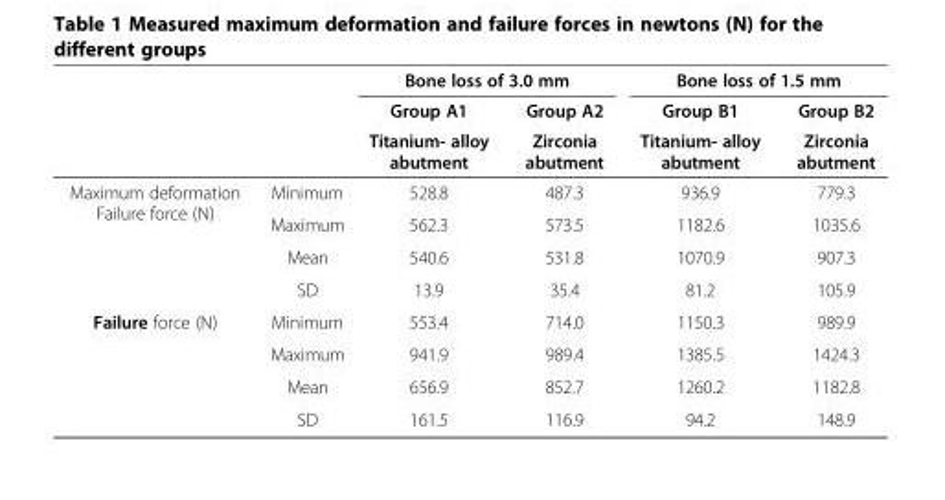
<table><thead><tr><td rowspan="3"></td><td rowspan="3"></td><td colspan="2">Bone loss of 3.0 mm</td><td colspan="2">Bone loss of 1.5 mm</td></tr><tr><td rowspan="2">Group A1 Titanium- alloy abutment</td><td rowspan="2">Group A2 Zirconia abutment</td><td rowspan="2">Group B1 Titanium- alloy abutment</td><td rowspan="2">Group B2 Zirconia abutment</td></tr><tr></tr></thead><tbody><tr><td rowspan="4">Maximum deformation Failure force (N)</td><td>Minimum</td><td>528.8</td><td>487.3</td><td>936.9</td><td>779.3</td></tr><tr><td>Maximum</td><td>562.3</td><td>573.5</td><td>1182.6</td><td>1035.6</td></tr><tr><td>Mean</td><td>540.6</td><td>531.8</td><td>1070.9</td><td>907.3</td></tr><tr><td>SD</td><td>13.9</td><td>35.4</td><td>81.2</td><td>105.9</td></tr><tr><td rowspan="4">Failure force (N)</td><td>Minimum</td><td>553.4</td><td>714.0</td><td>1150.3</td><td>989.9</td></tr><tr><td>Maximum</td><td>941.9</td><td>989.4</td><td>1385.5</td><td>1424.3</td></tr><tr><td>Mean</td><td>656.9</td><td>852.7</td><td>1260.2</td><td>1182.8</td></tr><tr><td>SD</td><td>161.5</td><td>116.9</td><td>94.2</td><td>148.9</td></tr></tbody></table>